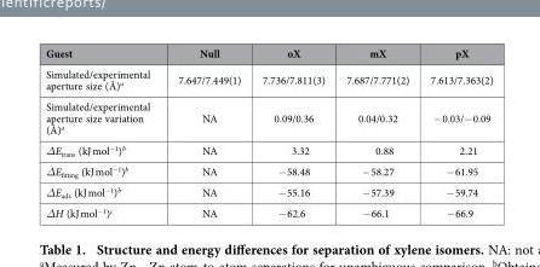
<table><thead><tr><td>Guest</td><td>Null</td><td>oX</td><td>mX</td><td>pX</td></tr></thead><tbody><tr><td>Simulated/experimental aperture size (Å)<sup>a</sup></td><td>7.647/7.449(1)</td><td>7.736/7.811(3)</td><td>7.687/7.771(2)</td><td>7.613/7.363(2)</td></tr><tr><td>Simulated/experimental aperture size variation (Å)<sup>a</sup></td><td>NA</td><td>0.09/0.36</td><td>0.04/0.32</td><td>− 0.03/− 0.09</td></tr><tr><td>ΔE<sub>trans</sub> (kJ mol<sup>−1</sup>)<sup>b</sup></td><td>NA</td><td>3.32</td><td>0.88</td><td>2.21</td></tr><tr><td>ΔE<sub>fitting</sub> (kJ mol<sup>−1</sup>)<sup>b</sup></td><td>NA</td><td>− 58.48</td><td>− 58.27</td><td>− 61.95</td></tr><tr><td>ΔE<sub>ads</sub> (kJ mol<sup>−1</sup>)<sup>b</sup></td><td>NA</td><td>− 55.16</td><td>− 57.39</td><td>− 59.74</td></tr><tr><td>ΔH (kJ mol<sup>−1</sup>)<sup>c</sup></td><td>NA</td><td>− 62.6</td><td>− 66.1</td><td>− 66.9</td></tr></tbody></table>